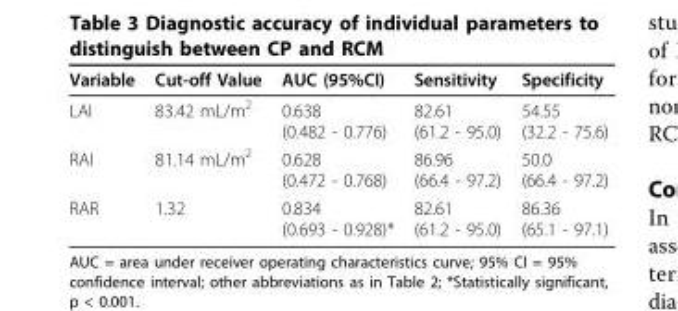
<table><thead><tr><td>Variable</td><td>Cut-off Value</td><td>AUC (95%CI)</td><td>Sensitivity</td><td>Specificity</td></tr></thead><tbody><tr><td>LAI</td><td>83.42 mL/m<sup>2</sup></td><td>0.638 (0.482 - 0.776)</td><td>82.61 (61.2 - 95.0)</td><td>54.55 (32.2 - 75.6)</td></tr><tr><td>RAI</td><td>81.14 mL/m<sup>2</sup></td><td>0.628 (0.472 - 0.768)</td><td>86.96 (66.4 - 97.2)</td><td>50.0 (66.4 - 97.2)</td></tr><tr><td>RAR</td><td>1.32</td><td>0.834 (0.693 - 0.928)*</td><td>82.61 (61.2 - 95.0)</td><td>86.36 (65.1 - 97.1)</td></tr></tbody></table>